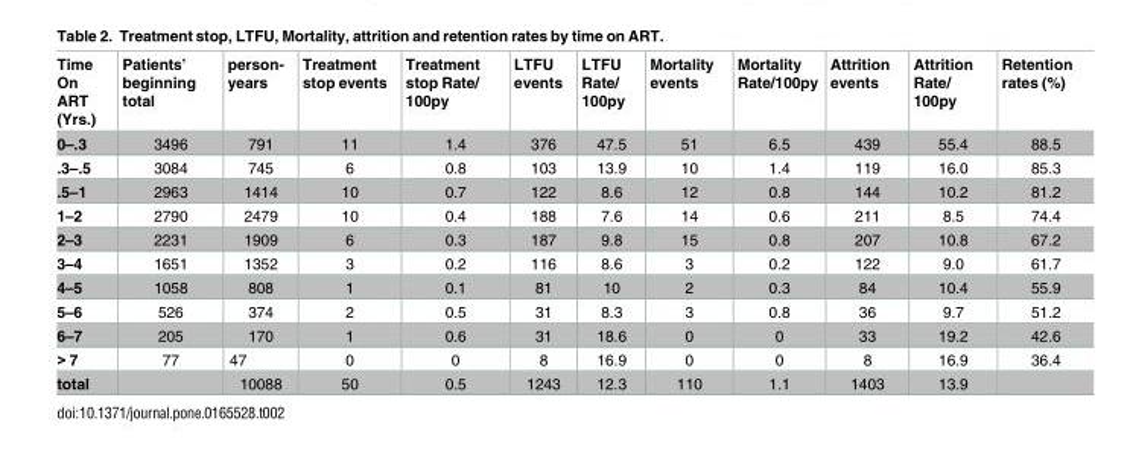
<table><thead><tr><td>Time On ART (Yrs.)</td><td>Patients’ beginning total</td><td>person- years</td><td>Treatment stop events</td><td>Treatment stop Rate/ 100py</td><td>LTFU events</td><td>LTFU Rate/ 100py</td><td>Mortality events</td><td>Mortality Rate/100py</td><td>Attrition events</td><td>Attrition Rate/ 100py</td><td>Retention rates (%)</td></tr></thead><tbody><tr><td>0–.3</td><td>3496</td><td>791</td><td>11</td><td>1.4</td><td>376</td><td>47.5</td><td>51</td><td>6.5</td><td>439</td><td>55.4</td><td>88.5</td></tr><tr><td>.3–.5</td><td>3084</td><td>745</td><td>6</td><td>0.8</td><td>103</td><td>13.9</td><td>10</td><td>1.4</td><td>119</td><td>16.0</td><td>85.3</td></tr><tr><td>.5–1</td><td>2963</td><td>1414</td><td>10</td><td>0.7</td><td>122</td><td>8.6</td><td>12</td><td>0.8</td><td>144</td><td>10.2</td><td>81.2</td></tr><tr><td>1–2</td><td>2790</td><td>2479</td><td>10</td><td>0.4</td><td>188</td><td>7.6</td><td>14</td><td>0.6</td><td>211</td><td>8.5</td><td>74.4</td></tr><tr><td>2–3</td><td>2231</td><td>1909</td><td>6</td><td>0.3</td><td>187</td><td>9.8</td><td>15</td><td>0.8</td><td>207</td><td>10.8</td><td>67.2</td></tr><tr><td>3–4</td><td>1651</td><td>1352</td><td>3</td><td>0.2</td><td>116</td><td>8.6</td><td>3</td><td>0.2</td><td>122</td><td>9.0</td><td>61.7</td></tr><tr><td>4–5</td><td>1058</td><td>808</td><td>1</td><td>0.1</td><td>81</td><td>10</td><td>2</td><td>0.3</td><td>84</td><td>10.4</td><td>55.9</td></tr><tr><td>5–6</td><td>526</td><td>374</td><td>2</td><td>0.5</td><td>31</td><td>8.3</td><td>3</td><td>0.8</td><td>36</td><td>9.7</td><td>51.2</td></tr><tr><td>6–7</td><td>205</td><td>170</td><td>1</td><td>0.6</td><td>31</td><td>18.6</td><td>0</td><td>0</td><td>33</td><td>19.2</td><td>42.6</td></tr><tr><td>&gt; 7</td><td>77</td><td>47</td><td>0</td><td>0</td><td>8</td><td>16.9</td><td>0</td><td>0</td><td>8</td><td>16.9</td><td>36.4</td></tr><tr><td>total</td><td></td><td>10088</td><td>50</td><td>0.5</td><td>1243</td><td>12.3</td><td>110</td><td>1.1</td><td>1403</td><td>13.9</td><td></td></tr></tbody></table>